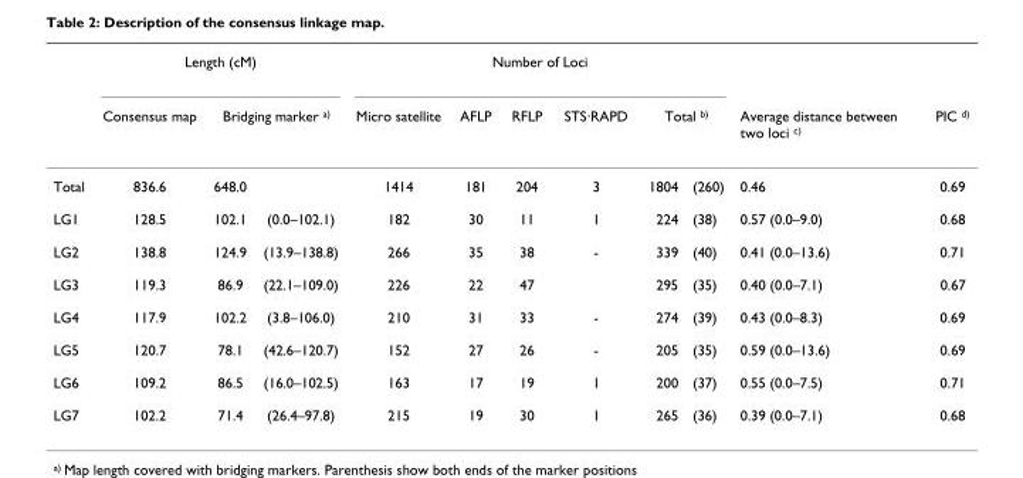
<table><thead><tr><td rowspan="3">Total</td><td colspan="3">Length (cM)</td><td colspan="6">Number of Loci</td><td rowspan="3">Average distance between two loci <sup>c)</sup> 0.46</td><td rowspan="3">PIC <sup>d)</sup> 0.69</td></tr><tr><td rowspan="2">Consensus map 836.6</td><td colspan="2">Bridging marker <sup>a)</sup></td><td rowspan="2">Micro satellite 1414</td><td rowspan="2">AFLP 181</td><td rowspan="2">RFLP 204</td><td rowspan="2">STS·RAPD 3</td><td colspan="2">Total <sup>b)</sup></td></tr><tr><td>648.0</td><td></td><td>1804</td><td>(260)</td></tr></thead><tbody><tr><td>LG1</td><td>128.5</td><td>102.1</td><td>(0.0–102.1)</td><td>182</td><td>30</td><td>11</td><td>1</td><td>224</td><td>(38)</td><td>0.57 (0.0–9.0)</td><td>0.68</td></tr><tr><td>LG2</td><td>138.8</td><td>124.9</td><td>(13.9–138.8)</td><td>266</td><td>35</td><td>38</td><td>-</td><td>339</td><td>(40)</td><td>0.41 (0.0–13.6)</td><td>0.71</td></tr><tr><td>LG3</td><td>119.3</td><td>86.9</td><td>(22.1–109.0)</td><td>226</td><td>22</td><td>47</td><td></td><td>295</td><td>(35)</td><td>0.40 (0.0–7.1)</td><td>0.67</td></tr><tr><td>LG4</td><td>117.9</td><td>102.2</td><td>(3.8–106.0)</td><td>210</td><td>31</td><td>33</td><td>-</td><td>274</td><td>(39)</td><td>0.43 (0.0–8.3)</td><td>0.69</td></tr><tr><td>LG5</td><td>120.7</td><td>78.1</td><td>(42.6–120.7)</td><td>152</td><td>27</td><td>26</td><td>-</td><td>205</td><td>(35)</td><td>0.59 (0.0–13.6)</td><td>0.69</td></tr><tr><td>LG6</td><td>109.2</td><td>86.5</td><td>(16.0–102.5)</td><td>163</td><td>17</td><td>19</td><td>1</td><td>200</td><td>(37)</td><td>0.55 (0.0–7.5)</td><td>0.71</td></tr><tr><td>LG7</td><td>102.2</td><td>71.4</td><td>(26.4–97.8)</td><td>215</td><td>19</td><td>30</td><td>1</td><td>265</td><td>(36)</td><td>0.39 (0.0–7.1)</td><td>0.68</td></tr></tbody></table>